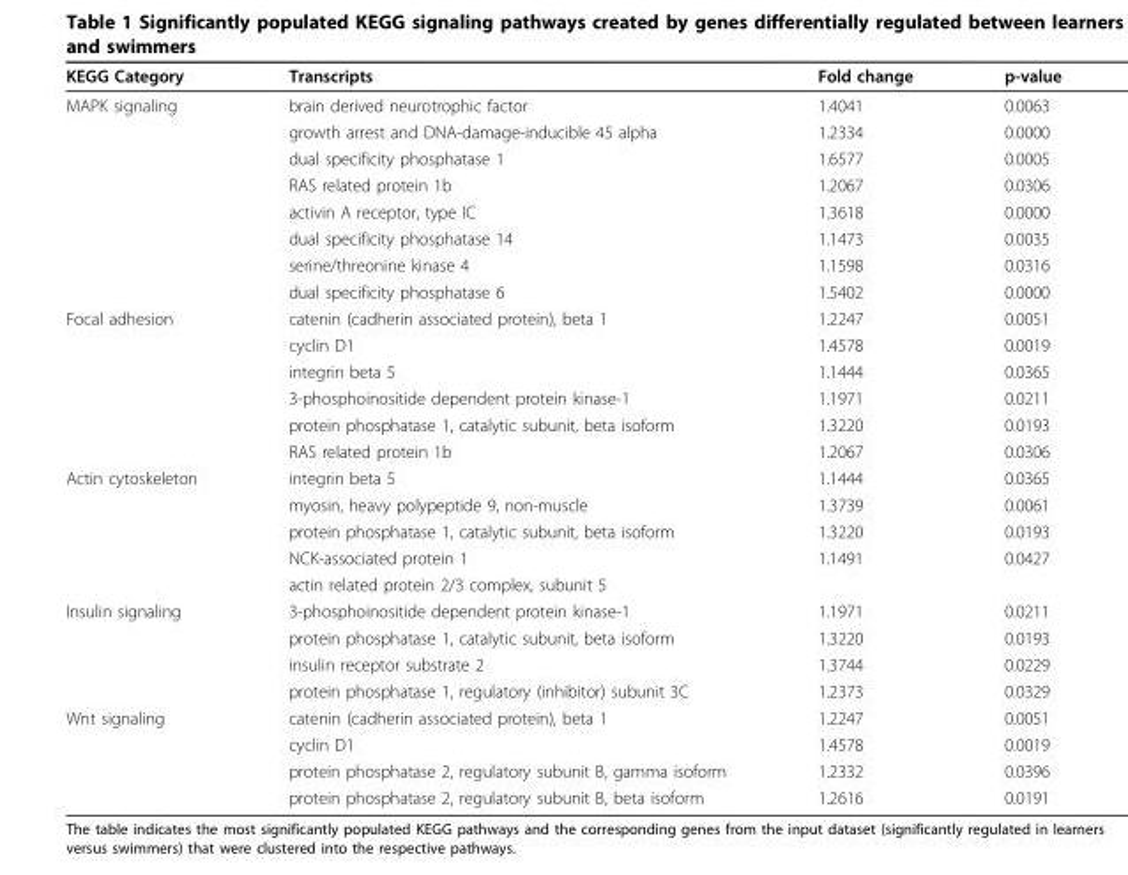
<table><thead><tr><td>KEGG Category</td><td>Transcripts</td><td>Fold change</td><td>p-value</td></tr></thead><tbody><tr><td rowspan="8">MAPK signaling</td><td>brain derived neurotrophic factor</td><td>1.4041</td><td>0.0063</td></tr><tr><td>growth arrest and DNA-damage-inducible 45 alpha</td><td>1.2334</td><td>0.0000</td></tr><tr><td>dual specificity phosphatase 1</td><td>1.6577</td><td>0.0005</td></tr><tr><td>RAS related protein 1b</td><td>1.2067</td><td>0.0306</td></tr><tr><td>activin A receptor, type IC</td><td>1.3618</td><td>0.0000</td></tr><tr><td>dual specificity phosphatase 14</td><td>1.1473</td><td>0.0035</td></tr><tr><td>serine/threonine kinase 4</td><td>1.1598</td><td>0.0316</td></tr><tr><td>dual specificity phosphatase 6</td><td>1.5402</td><td>0.0000</td></tr><tr><td rowspan="6">Focal adhesion</td><td>catenin (cadherin associated protein), beta 1</td><td>1.2247</td><td>0.0051</td></tr><tr><td>cyclin D1</td><td>1.4578</td><td>0.0019</td></tr><tr><td>integrin beta 5</td><td>1.1444</td><td>0.0365</td></tr><tr><td>3-phosphoinositide dependent protein kinase-1</td><td>1.1971</td><td>0.0211</td></tr><tr><td>protein phosphatase 1, catalytic subunit, beta isoform</td><td>1.3220</td><td>0.0193</td></tr><tr><td>RAS related protein 1b</td><td>1.2067</td><td>0.0306</td></tr><tr><td rowspan="5">Actin cytoskeleton</td><td>integrin beta 5</td><td>1.1444</td><td>0.0365</td></tr><tr><td>myosin, heavy polypeptide 9, non-muscle</td><td>1.3739</td><td>0.0061</td></tr><tr><td>protein phosphatase 1, catalytic subunit, beta isoform</td><td>1.3220</td><td>0.0193</td></tr><tr><td>NCK-associated protein 1</td><td>1.1491</td><td>0.0427</td></tr><tr><td>actin related protein 2/3 complex, subunit 5</td><td></td><td></td></tr><tr><td rowspan="4">Insulin signaling</td><td>3-phosphoinositide dependent protein kinase-1</td><td>1.1971</td><td>0.0211</td></tr><tr><td>protein phosphatase 1, catalytic subunit, beta isoform</td><td>1.3220</td><td>0.0193</td></tr><tr><td>insulin receptor substrate 2</td><td>1.3744</td><td>0.0229</td></tr><tr><td>protein phosphatase 1, regulatory (inhibitor) subunit 3C</td><td>1.2373</td><td>0.0329</td></tr><tr><td rowspan="4">Wnt signaling</td><td>catenin (cadherin associated protein), beta 1</td><td>1.2247</td><td>0.0051</td></tr><tr><td>cyclin D1</td><td>1.4578</td><td>0.0019</td></tr><tr><td>protein phosphatase 2, regulatory subunit B, gamma isoform</td><td>1.2332</td><td>0.0396</td></tr><tr><td>protein phosphatase 2, regulatory subunit B, beta isoform</td><td>1.2616</td><td>0.0191</td></tr></tbody></table>